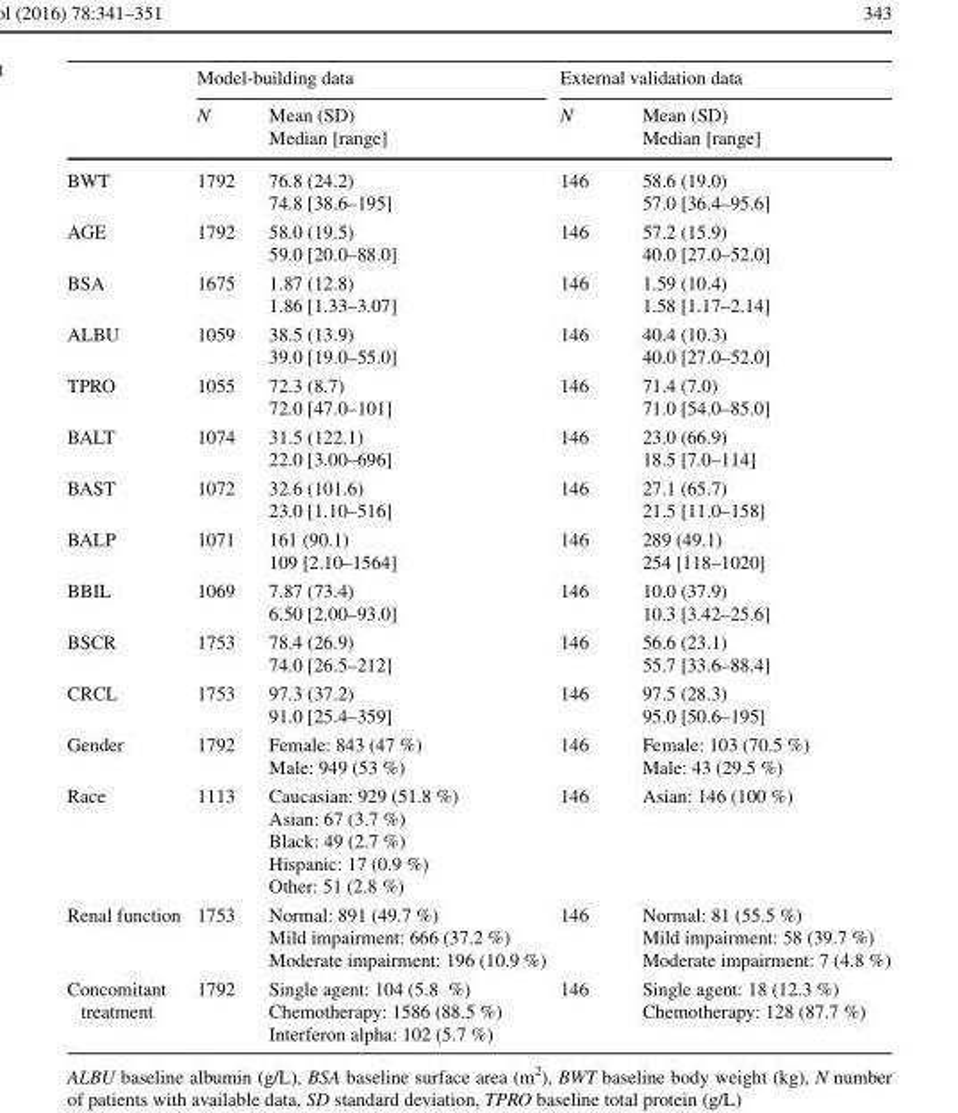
<table><thead><tr><td rowspan="2"></td><td colspan="2">Model-building data</td><td colspan="2">External validation data</td></tr><tr><td>N</td><td>Mean (SD) Median [range]</td><td>N</td><td>Mean (SD) Median [range]</td></tr></thead><tbody><tr><td>BWT</td><td>1792</td><td>76.8 (24.2) 74.8 [38.6–195]</td><td>146</td><td>58.6 (19.0) 57.0 [36.4–95.6]</td></tr><tr><td>AGE</td><td>1792</td><td>58.0 (19.5) 59.0 [20.0–88.0]</td><td>146</td><td>57.2 (15.9) 40.0 [27.0–52.0]</td></tr><tr><td>BSA</td><td>1675</td><td>1.87 (12.8) 1.86 [1.33–3.07]</td><td>146</td><td>1.59 (10.4) 1.58 [1.17–2.14]</td></tr><tr><td>ALBU</td><td>1059</td><td>38.5 (13.9) 39.0 [19.0–55.0]</td><td>146</td><td>40.4 (10.3) 40.0 [27.0–52.0]</td></tr><tr><td>TPRO</td><td>1055</td><td>72.3 (8.7) 72.0 [47.0–101]</td><td>146</td><td>71.4 (7.0) 71.0 [54.0–85.0]</td></tr><tr><td>BALT</td><td>1074</td><td>31.5 (122.1) 22.0 [3.00–696]</td><td>146</td><td>23.0 (66.9) 18.5 [7.0–114]</td></tr><tr><td>BAST</td><td>1072</td><td>32.6 (101.6) 23.0 [1.10–516]</td><td>146</td><td>27.1 (65.7) 21.5 [11.0–158]</td></tr><tr><td>BALP</td><td>1071</td><td>161 (90.1) 109 [2.10–1564]</td><td>146</td><td>289 (49.1) 254 [118–1020]</td></tr><tr><td>BBIL</td><td>1069</td><td>7.87 (73.4) 6.50 [2.00–93.0]</td><td>146</td><td>10.0 (37.9) 10.3 [3.42–25.6]</td></tr><tr><td>BSCR</td><td>1753</td><td>78.4 (26.9) 74.0 [26.5–212]</td><td>146</td><td>56.6 (23.1) 55.7 [33.6–88.4]</td></tr><tr><td>CRCL</td><td>1753</td><td>97.3 (37.2) 91.0 [25.4–359]</td><td>146</td><td>97.5 (28.3) 95.0 [50.6–195]</td></tr><tr><td>Gender</td><td>1792</td><td>Female: 843 (47 %) Male: 949 (53 %)</td><td>146</td><td>Female: 103 (70.5 %) Male: 43 (29.5 %)</td></tr><tr><td>Race</td><td>1113</td><td>Caucasian: 929 (51.8 %) Asian: 67 (3.7 %) Black: 49 (2.7 %) Hispanic: 17 (0.9 %) Other: 51 (2.8 %)</td><td>146</td><td>Asian: 146 (100 %)</td></tr><tr><td>Renal function</td><td>1753</td><td>Normal: 891 (49.7 %) Mild impairment: 666 (37.2 %) Moderate impairment: 196 (10.9 %)</td><td>146</td><td>Normal: 81 (55.5 %) Mild impairment: 58 (39.7 %) Moderate impairment: 7 (4.8 %)</td></tr><tr><td>Concomitant treatment</td><td>1792</td><td>Single agent: 104 (5.8 %) Chemotherapy: 1586 (88.5 %) Interferon alpha: 102 (5.7 %)</td><td>146</td><td>Single agent: 18 (12.3 %) Chemotherapy: 128 (87.7 %)</td></tr></tbody></table>